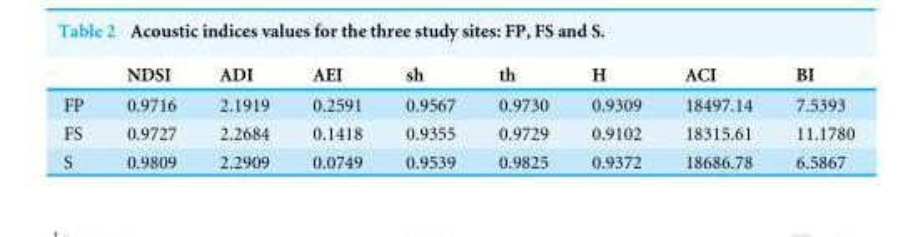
<table><thead><tr><td></td><td>NDSI</td><td>ADI</td><td>AEI</td><td>sh</td><td>th</td><td>H</td><td>ACI</td><td>BI</td></tr></thead><tbody><tr><td>FP</td><td>0.9716</td><td>2.1919</td><td>0.2591</td><td>0.9567</td><td>0.9730</td><td>0.9309</td><td>18497.14</td><td>7.5393</td></tr><tr><td>FS</td><td>0.9727</td><td>2.2684</td><td>0.1418</td><td>0.9355</td><td>0.9729</td><td>0.9102</td><td>18315.61</td><td>11.1780</td></tr><tr><td>S</td><td>0.9809</td><td>2.2909</td><td>0.0749</td><td>0.9539</td><td>0.9825</td><td>0.9372</td><td>18686.78</td><td>6.5867</td></tr></tbody></table>